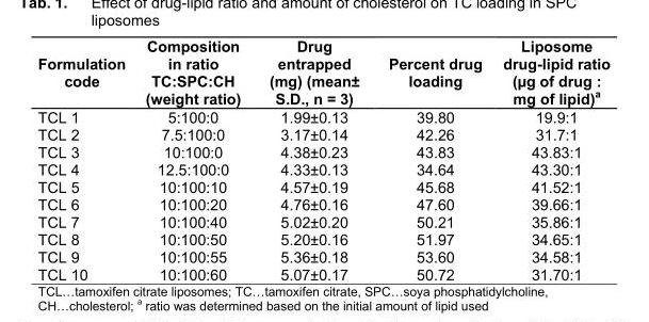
<table><thead><tr><td>Formulation code</td><td>Composition in ratio TC:SPC:CH (weight ratio)</td><td>Drug entrapped (mg) (mean± S.D., n = 3)</td><td>Percent drug loading</td><td>Liposome drug-lipid ratio (µg of drug : mg of lipid)<sup>a</sup></td></tr></thead><tbody><tr><td>TCL 1</td><td>5:100:0</td><td>1.99±0.13</td><td>39.80</td><td>19.9:1</td></tr><tr><td>TCL 2</td><td>7.5:100:0</td><td>3.17±0.14</td><td>42.26</td><td>31.7:1</td></tr><tr><td>TCL 3</td><td>10:100:0</td><td>4.38±0.23</td><td>43.83</td><td>43.83:1</td></tr><tr><td>TCL 4</td><td>12.5:100:0</td><td>4.33±0.13</td><td>34.64</td><td>43.30:1</td></tr><tr><td>TCL 5</td><td>10:100:10</td><td>4.57±0.19</td><td>45.68</td><td>41.52:1</td></tr><tr><td>TCL 6</td><td>10:100:20</td><td>4.76±0.16</td><td>47.60</td><td>39.66:1</td></tr><tr><td>TCL 7</td><td>10:100:40</td><td>5.02±0.20</td><td>50.21</td><td>35.86:1</td></tr><tr><td>TCL 8</td><td>10:100:50</td><td>5.20±0.16</td><td>51.97</td><td>34.65:1</td></tr><tr><td>TCL 9</td><td>10:100:55</td><td>5.36±0.18</td><td>53.60</td><td>34.58:1</td></tr><tr><td>TCL 10</td><td>10:100:60</td><td>5.07±0.17</td><td>50.72</td><td>31.70:1</td></tr></tbody></table>